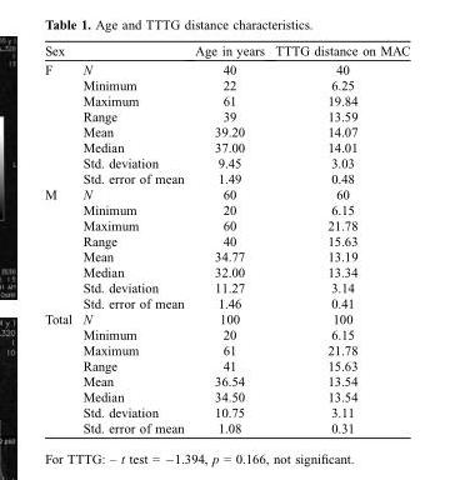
<table><thead><tr><td>Sex</td><td></td><td>Age in years</td><td>TTTG distance on MAC</td></tr></thead><tbody><tr><td rowspan="8">F</td><td>N</td><td>40</td><td>40</td></tr><tr><td>Minimum</td><td>22</td><td>6.25</td></tr><tr><td>Maximum</td><td>61</td><td>19.84</td></tr><tr><td>Range</td><td>39</td><td>13.59</td></tr><tr><td>Mean</td><td>39.20</td><td>14.07</td></tr><tr><td>Median</td><td>37.00</td><td>14.01</td></tr><tr><td>Std. deviation</td><td>9.45</td><td>3.03</td></tr><tr><td>Std. error of mean</td><td>1.49</td><td>0.48</td></tr><tr><td rowspan="8">M</td><td>N</td><td>60</td><td>60</td></tr><tr><td>Minimum</td><td>20</td><td>6.15</td></tr><tr><td>Maximum</td><td>60</td><td>21.78</td></tr><tr><td>Range</td><td>40</td><td>15.63</td></tr><tr><td>Mean</td><td>34.77</td><td>13.19</td></tr><tr><td>Median</td><td>32.00</td><td>13.34</td></tr><tr><td>Std. deviation</td><td>11.27</td><td>3.14</td></tr><tr><td>Std. error of mean</td><td>1.46</td><td>0.41</td></tr><tr><td rowspan="8">Total</td><td>N</td><td>100</td><td>100</td></tr><tr><td>Minimum</td><td>20</td><td>6.15</td></tr><tr><td>Maximum</td><td>61</td><td>21.78</td></tr><tr><td>Range</td><td>41</td><td>15.63</td></tr><tr><td>Mean</td><td>36.54</td><td>13.54</td></tr><tr><td>Median</td><td>34.50</td><td>13.54</td></tr><tr><td>Std. deviation</td><td>10.75</td><td>3.11</td></tr><tr><td>Std. error of mean</td><td>1.08</td><td>0.31</td></tr></tbody></table>